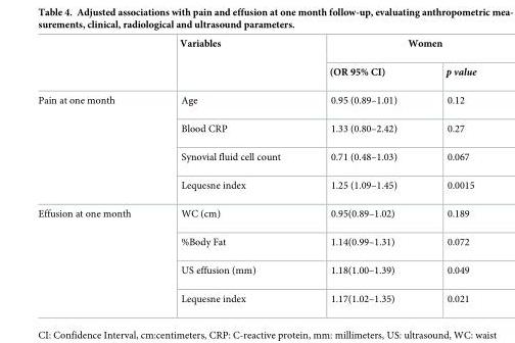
<table><thead><tr><td rowspan="2"></td><td rowspan="2">Variables</td><td colspan="2">Women</td></tr><tr><td>(OR 95% CI)</td><td>p value</td></tr></thead><tbody><tr><td rowspan="4">Pain at one month</td><td>Age</td><td>0.95 (0.89–1.01)</td><td>0.12</td></tr><tr><td>Blood CRP</td><td>1.33 (0.80–2.42)</td><td>0.27</td></tr><tr><td>Synovial fluid cell count</td><td>0.71 (0.48–1.03)</td><td>0.067</td></tr><tr><td>Lequesne index</td><td>1.25 (1.09–1.45)</td><td>0.0015</td></tr><tr><td rowspan="4">Effusion at one month</td><td>WC (cm)</td><td>0.95(0.89–1.02)</td><td>0.189</td></tr><tr><td>%Body Fat</td><td>1.14(0.99–1.31)</td><td>0.072</td></tr><tr><td>US effusion (mm)</td><td>1.18(1.00–1.39)</td><td>0.049</td></tr><tr><td>Lequesne index</td><td>1.17(1.02–1.35)</td><td>0.021</td></tr></tbody></table>